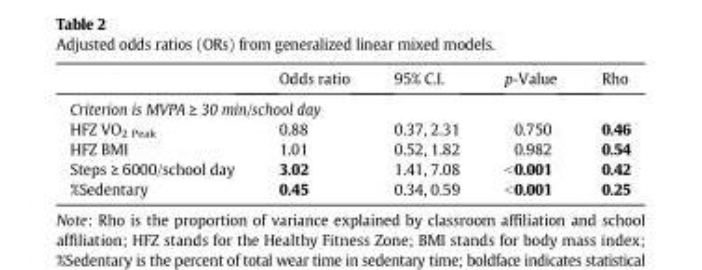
<table><thead><tr><td></td><td>Odds ratio</td><td>95% C.I.</td><td>p-Value</td><td>Rho</td></tr></thead><tbody><tr><td colspan="5">Criterion is MVPA ≥ 30 min/school day</td></tr><tr><td>HFZ VO<sub>2 Peak</sub></td><td>0.88</td><td>0.37, 2.31</td><td>0.750</td><td>0.46</td></tr><tr><td>HFZ BMI</td><td>1.01</td><td>0.52, 1.82</td><td>0.982</td><td>0.54</td></tr><tr><td>Steps ≥ 6000/school day</td><td>3.02</td><td>1.41, 7.08</td><td>&lt;0.001</td><td>0.42</td></tr><tr><td>%Sedentary</td><td>0.45</td><td>0.34, 0.59</td><td>&lt;0.001</td><td>0.25</td></tr></tbody></table>